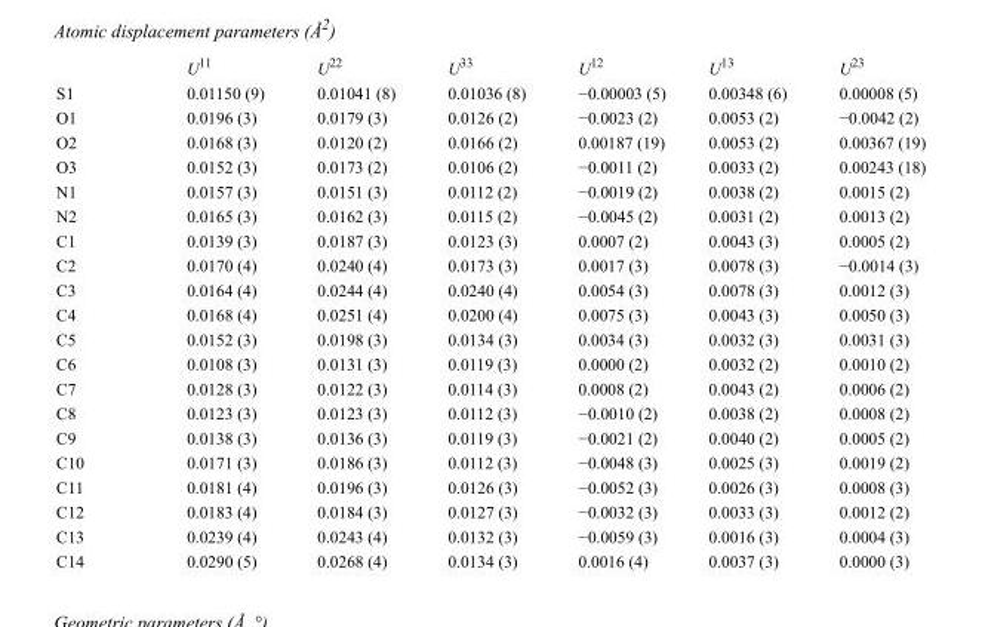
<table><thead><tr><td></td><td>U<sup>11</sup></td><td>U<sup>22</sup></td><td>U<sup>33</sup></td><td>U<sup>12</sup></td><td>U<sup>13</sup></td><td>U<sup>23</sup></td></tr></thead><tbody><tr><td>S1</td><td>0.01150 (9)</td><td>0.01041 (8)</td><td>0.01036 (8)</td><td>−0.00003 (5)</td><td>0.00348 (6)</td><td>0.00008 (5)</td></tr><tr><td>O1</td><td>0.0196 (3)</td><td>0.0179 (3)</td><td>0.0126 (2)</td><td>−0.0023 (2)</td><td>0.0053 (2)</td><td>−0.0042 (2)</td></tr><tr><td>O2</td><td>0.0168 (3)</td><td>0.0120 (2)</td><td>0.0166 (2)</td><td>0.00187 (19)</td><td>0.0053 (2)</td><td>0.00367 (19)</td></tr><tr><td>O3</td><td>0.0152 (3)</td><td>0.0173 (2)</td><td>0.0106 (2)</td><td>−0.0011 (2)</td><td>0.0033 (2)</td><td>0.00243 (18)</td></tr><tr><td>N1</td><td>0.0157 (3)</td><td>0.0151 (3)</td><td>0.0112 (2)</td><td>−0.0019 (2)</td><td>0.0038 (2)</td><td>0.0015 (2)</td></tr><tr><td>N2</td><td>0.0165 (3)</td><td>0.0162 (3)</td><td>0.0115 (2)</td><td>−0.0045 (2)</td><td>0.0031 (2)</td><td>0.0013 (2)</td></tr><tr><td>C1</td><td>0.0139 (3)</td><td>0.0187 (3)</td><td>0.0123 (3)</td><td>0.0007 (2)</td><td>0.0043 (3)</td><td>0.0005 (2)</td></tr><tr><td>C2</td><td>0.0170 (4)</td><td>0.0240 (4)</td><td>0.0173 (3)</td><td>0.0017 (3)</td><td>0.0078 (3)</td><td>−0.0014 (3)</td></tr><tr><td>C3</td><td>0.0164 (4)</td><td>0.0244 (4)</td><td>0.0240 (4)</td><td>0.0054 (3)</td><td>0.0078 (3)</td><td>0.0012 (3)</td></tr><tr><td>C4</td><td>0.0168 (4)</td><td>0.0251 (4)</td><td>0.0200 (4)</td><td>0.0075 (3)</td><td>0.0043 (3)</td><td>0.0050 (3)</td></tr><tr><td>C5</td><td>0.0152 (3)</td><td>0.0198 (3)</td><td>0.0134 (3)</td><td>0.0034 (3)</td><td>0.0032 (3)</td><td>0.0031 (3)</td></tr><tr><td>C6</td><td>0.0108 (3)</td><td>0.0131 (3)</td><td>0.0119 (3)</td><td>0.0000 (2)</td><td>0.0032 (2)</td><td>0.0010 (2)</td></tr><tr><td>C7</td><td>0.0128 (3)</td><td>0.0122 (3)</td><td>0.0114 (3)</td><td>0.0008 (2)</td><td>0.0043 (2)</td><td>0.0006 (2)</td></tr><tr><td>C8</td><td>0.0123 (3)</td><td>0.0123 (3)</td><td>0.0112 (3)</td><td>−0.0010 (2)</td><td>0.0038 (2)</td><td>0.0008 (2)</td></tr><tr><td>C9</td><td>0.0138 (3)</td><td>0.0136 (3)</td><td>0.0119 (3)</td><td>−0.0021 (2)</td><td>0.0040 (2)</td><td>0.0005 (2)</td></tr><tr><td>C10</td><td>0.0171 (3)</td><td>0.0186 (3)</td><td>0.0112 (3)</td><td>−0.0048 (3)</td><td>0.0025 (3)</td><td>0.0019 (2)</td></tr><tr><td>C11</td><td>0.0181 (4)</td><td>0.0196 (3)</td><td>0.0126 (3)</td><td>−0.0052 (3)</td><td>0.0026 (3)</td><td>0.0008 (3)</td></tr><tr><td>C12</td><td>0.0183 (4)</td><td>0.0184 (3)</td><td>0.0127 (3)</td><td>−0.0032 (3)</td><td>0.0033 (3)</td><td>0.0012 (2)</td></tr><tr><td>C13</td><td>0.0239 (4)</td><td>0.0243 (4)</td><td>0.0132 (3)</td><td>−0.0059 (3)</td><td>0.0016 (3)</td><td>0.0004 (3)</td></tr><tr><td>C14</td><td>0.0290 (5)</td><td>0.0268 (4)</td><td>0.0134 (3)</td><td>0.0016 (4)</td><td>0.0037 (3)</td><td>0.0000 (3)</td></tr></tbody></table>